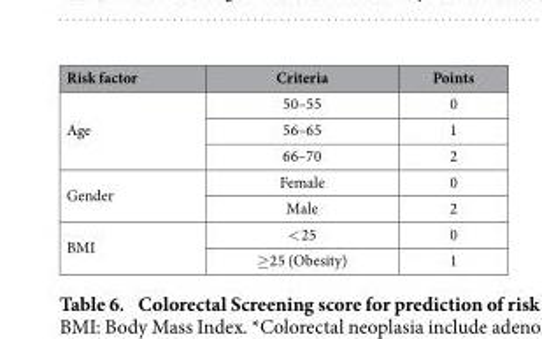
<table><thead><tr><td>Risk factor</td><td>Criteria</td><td>Points</td></tr></thead><tbody><tr><td rowspan="3">Age</td><td>50–55</td><td>0</td></tr><tr><td>56–65</td><td>1</td></tr><tr><td>66–70</td><td>2</td></tr><tr><td rowspan="2">Gender</td><td>Female</td><td>0</td></tr><tr><td>Male</td><td>2</td></tr><tr><td rowspan="2">BMI</td><td>&lt; 25</td><td>0</td></tr><tr><td>≥ 25 (Obesity)</td><td>1</td></tr></tbody></table>